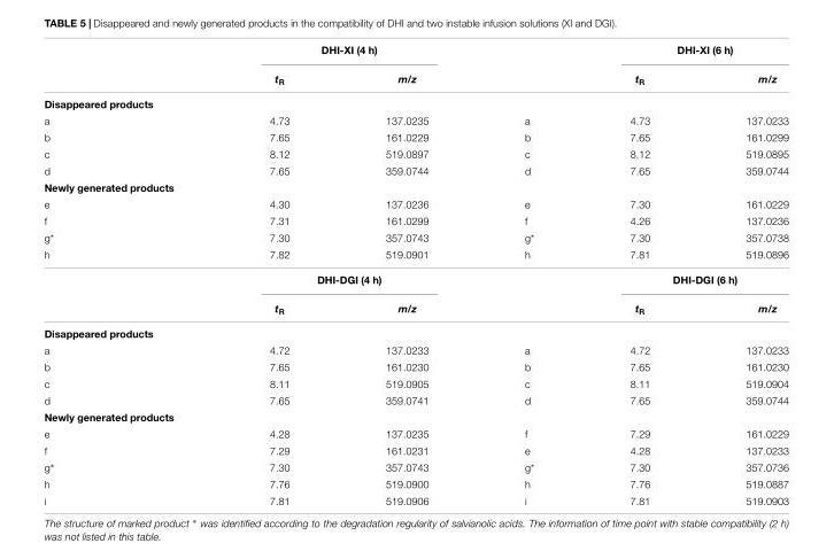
<table><thead><tr><td rowspan="2"></td><td colspan="2">DHI-XI (4 h)</td><td rowspan="2"></td><td colspan="2">DHI-XI (6 h)</td></tr><tr><td>t<sub>R</sub></td><td>m/z</td><td>t<sub>R</sub></td><td>m/z</td></tr></thead><tbody><tr><td colspan="6">Disappeared products</td></tr><tr><td>a</td><td>4.73</td><td>137.0235</td><td>a</td><td>4.73</td><td>137.0233</td></tr><tr><td>b</td><td>7.65</td><td>161.0229</td><td>b</td><td>7.65</td><td>161.0299</td></tr><tr><td>c</td><td>8.12</td><td>519.0897</td><td>c</td><td>8.12</td><td>519.0895</td></tr><tr><td>d</td><td>7.65</td><td>359.0744</td><td>d</td><td>7.65</td><td>359.0744</td></tr><tr><td colspan="6">Newly generated products</td></tr><tr><td>e</td><td>4.30</td><td>137.0236</td><td>e</td><td>7.30</td><td>161.0229</td></tr><tr><td>f</td><td>7.31</td><td>161.0299</td><td>f</td><td>4.26</td><td>137.0236</td></tr><tr><td>g*</td><td>7.30</td><td>357.0743</td><td>g*</td><td>7.30</td><td>357.0738</td></tr><tr><td rowspan="3">h</td><td>7.82</td><td>519.0901</td><td>h</td><td>7.81</td><td>519.0896</td></tr><tr><td colspan="2">DHI-DGI (4 h)</td><td></td><td colspan="2">DHI-DGI (6 h)</td></tr><tr><td>t<sub>R</sub></td><td>m/z</td><td></td><td>t<sub>R</sub></td><td>m/z</td></tr><tr><td colspan="6">Disappeared products</td></tr><tr><td>a</td><td>4.72</td><td>137.0233</td><td>a</td><td>4.72</td><td>137.0233</td></tr><tr><td>b</td><td>7.65</td><td>161.0230</td><td>b</td><td>7.65</td><td>161.0230</td></tr><tr><td>c</td><td>8.11</td><td>519.0905</td><td>c</td><td>8.11</td><td>519.0904</td></tr><tr><td>d</td><td>7.65</td><td>359.0741</td><td>d</td><td>7.65</td><td>359.0744</td></tr><tr><td colspan="6">Newly generated products</td></tr><tr><td>e</td><td>4.28</td><td>137.0235</td><td>f</td><td>7.29</td><td>161.0229</td></tr><tr><td>f</td><td>7.29</td><td>161.0231</td><td>e</td><td>4.28</td><td>137.0233</td></tr><tr><td>g∗</td><td>7.30</td><td>357.0743</td><td>g*</td><td>7.30</td><td>357.0736</td></tr><tr><td>h</td><td>7.76</td><td>519.0900</td><td>h</td><td>7.76</td><td>519.0887</td></tr><tr><td>i</td><td>7.81</td><td>519.0906</td><td>i</td><td>7.81</td><td>519.0903</td></tr></tbody></table>